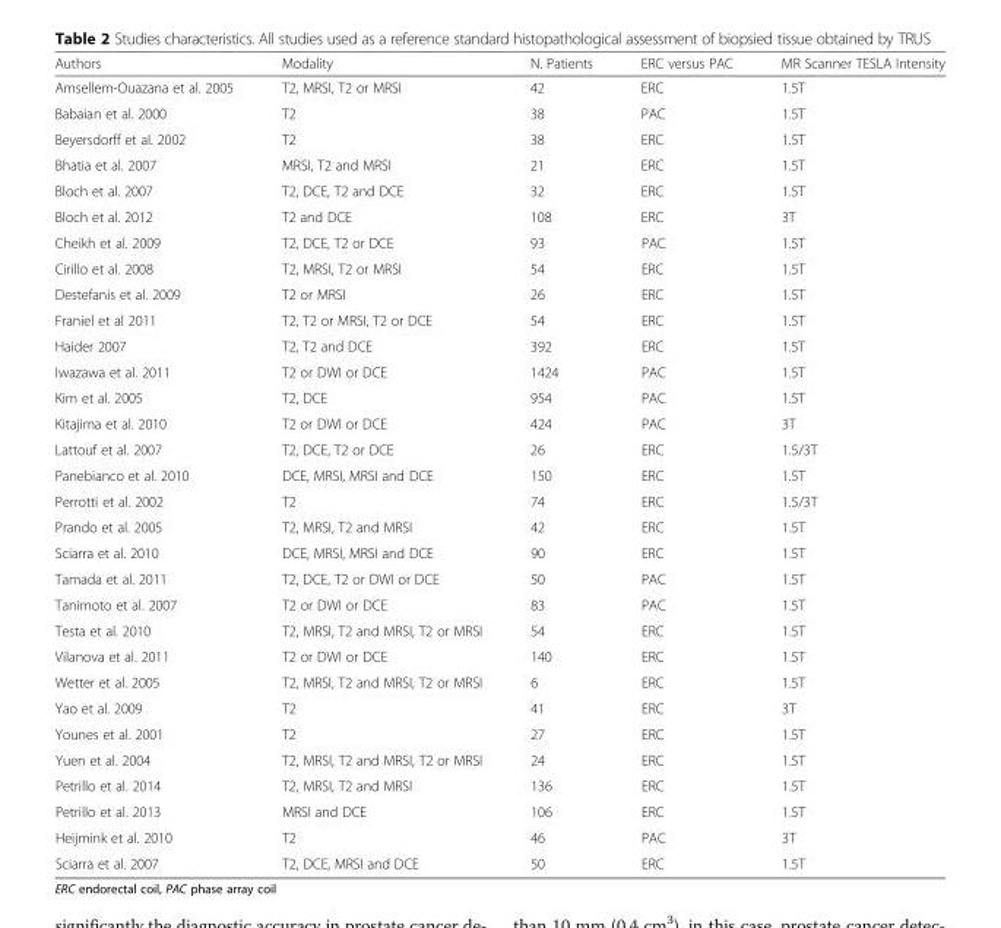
<table><thead><tr><td>Authors</td><td>Modality</td><td>N. Patients</td><td>ERC versus PAC</td><td>MR Scanner TESLA Intensity</td></tr></thead><tbody><tr><td>Amsellem-Ouazana et al. 2005</td><td>T2, MRSI, T2 or MRSI</td><td>42</td><td>ERC</td><td>1.5T</td></tr><tr><td>Babaian et al. 2000</td><td>T2</td><td>38</td><td>PAC</td><td>1.5T</td></tr><tr><td>Beyersdorff et al. 2002</td><td>T2</td><td>38</td><td>ERC</td><td>1.5T</td></tr><tr><td>Bhatia et al. 2007</td><td>MRSI, T2 and MRSI</td><td>21</td><td>ERC</td><td>1.5T</td></tr><tr><td>Bloch et al. 2007</td><td>T2, DCE, T2 and DCE</td><td>32</td><td>ERC</td><td>1.5T</td></tr><tr><td>Bloch et al. 2012</td><td>T2 and DCE</td><td>108</td><td>ERC</td><td>3T</td></tr><tr><td>Cheikh et al. 2009</td><td>T2, DCE, T2 or DCE</td><td>93</td><td>PAC</td><td>1.5T</td></tr><tr><td>Cirillo et al. 2008</td><td>T2, MRSI, T2 or MRSI</td><td>54</td><td>ERC</td><td>1.5T</td></tr><tr><td>Destefanis et al. 2009</td><td>T2 or MRSI</td><td>26</td><td>ERC</td><td>1.5T</td></tr><tr><td>Franiel et al 2011</td><td>T2, T2 or MRSI, T2 or DCE</td><td>54</td><td>ERC</td><td>1.5T</td></tr><tr><td>Haider 2007</td><td>T2, T2 and DCE</td><td>392</td><td>ERC</td><td>1.5T</td></tr><tr><td>Iwazawa et al. 2011</td><td>T2 or DWI or DCE</td><td>1424</td><td>PAC</td><td>1.5T</td></tr><tr><td>Kim et al. 2005</td><td>T2, DCE</td><td>954</td><td>PAC</td><td>1.5T</td></tr><tr><td>Kitajima et al. 2010</td><td>T2 or DWI or DCE</td><td>424</td><td>PAC</td><td>3T</td></tr><tr><td>Lattouf et al. 2007</td><td>T2, DCE, T2 or DCE</td><td>26</td><td>ERC</td><td>1.5/3T</td></tr><tr><td>Panebianco et al. 2010</td><td>DCE, MRSI, MRSI and DCE</td><td>150</td><td>ERC</td><td>1.5T</td></tr><tr><td>Perrotti et al. 2002</td><td>T2</td><td>74</td><td>ERC</td><td>1.5/3T</td></tr><tr><td>Prando et al. 2005</td><td>T2, MRSI, T2 and MRSI</td><td>42</td><td>ERC</td><td>1.5T</td></tr><tr><td>Sciarra et al. 2010</td><td>DCE, MRSI, MRSI and DCE</td><td>90</td><td>ERC</td><td>1.5T</td></tr><tr><td>Tamada et al. 2011</td><td>T2, DCE, T2 or DWI or DCE</td><td>50</td><td>PAC</td><td>1.5T</td></tr><tr><td>Tanimoto et al. 2007</td><td>T2 or DWI or DCE</td><td>83</td><td>PAC</td><td>1.5T</td></tr><tr><td>Testa et al. 2010</td><td>T2, MRSI, T2 and MRSI, T2 or MRSI</td><td>54</td><td>ERC</td><td>1.5T</td></tr><tr><td>Vilanova et al. 2011</td><td>T2 or DWI or DCE</td><td>140</td><td>ERC</td><td>1.5T</td></tr><tr><td>Wetter et al. 2005</td><td>T2, MRSI, T2 and MRSI, T2 or MRSI</td><td>6</td><td>ERC</td><td>1.5T</td></tr><tr><td>Yao et al. 2009</td><td>T2</td><td>41</td><td>ERC</td><td>3T</td></tr><tr><td>Younes et al. 2001</td><td>T2</td><td>27</td><td>ERC</td><td>1.5T</td></tr><tr><td>Yuen et al. 2004</td><td>T2, MRSI, T2 and MRSI, T2 or MRSI</td><td>24</td><td>ERC</td><td>1.5T</td></tr><tr><td>Petrillo et al. 2014</td><td>T2, MRSI, T2 and MRSI</td><td>136</td><td>ERC</td><td>1.5T</td></tr><tr><td>Petrillo et al. 2013</td><td>MRSI and DCE</td><td>106</td><td>ERC</td><td>1.5T</td></tr><tr><td>Heijmink et al. 2010</td><td>T2</td><td>46</td><td>PAC</td><td>3T</td></tr><tr><td>Sciarra et al. 2007</td><td>T2, DCE, MRSI and DCE</td><td>50</td><td>ERC</td><td>1.5T</td></tr></tbody></table>